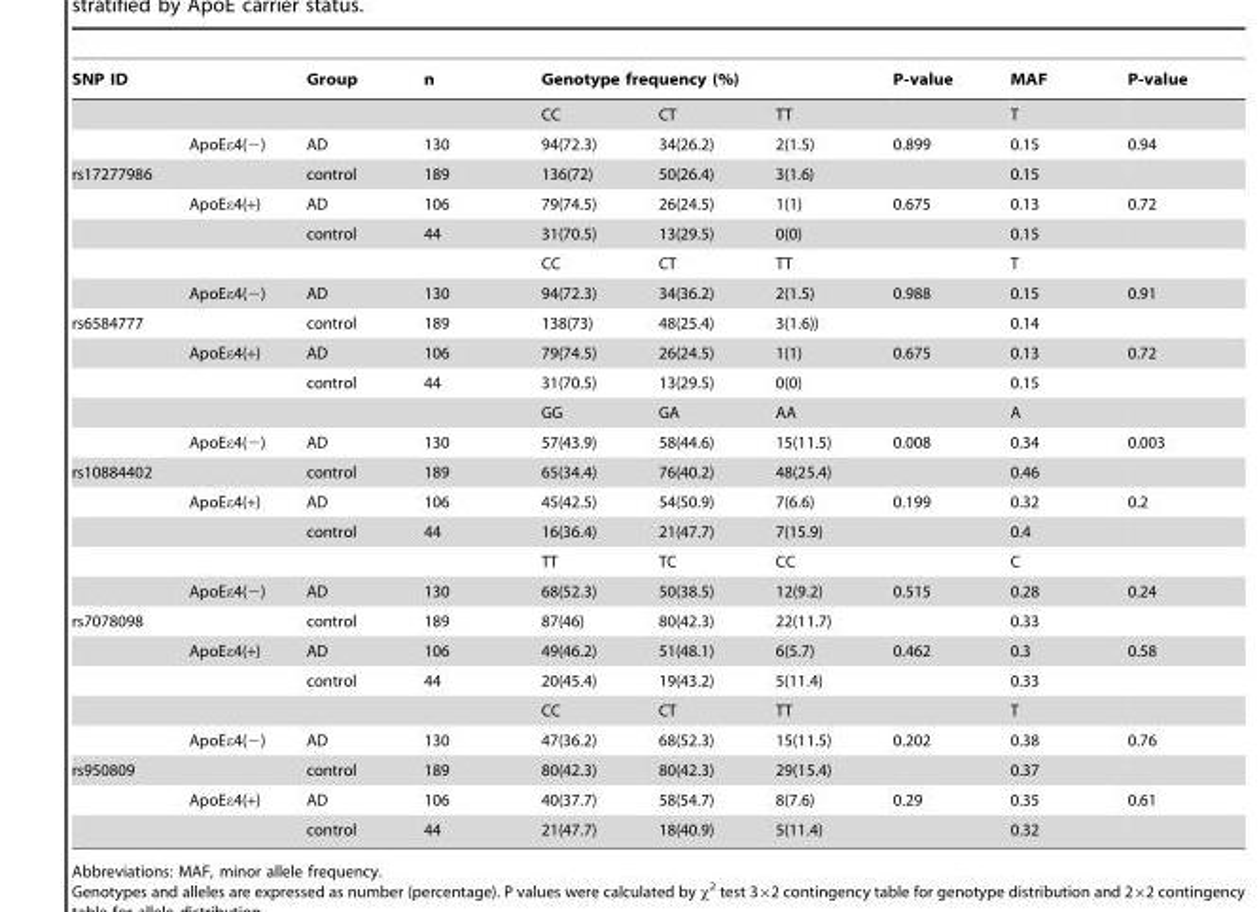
<table><thead><tr><td rowspan="2">SNP ID</td><td rowspan="2"></td><td rowspan="2">Group</td><td rowspan="2">n</td><td colspan="3">Genotype frequency (%)</td><td rowspan="2">P-value</td><td rowspan="2">MAF T</td><td rowspan="2">P-value</td></tr><tr><td>CC</td><td>CT</td><td>TT</td></tr></thead><tbody><tr><td></td><td>ApoEε4(−)</td><td>AD</td><td>130</td><td>94(72.3)</td><td>34(26.2)</td><td>2(1.5)</td><td>0.899</td><td>0.15</td><td>0.94</td></tr><tr><td rowspan="5">rs17277986</td><td></td><td>control</td><td>189</td><td>136(72)</td><td>50(26.4)</td><td>3(1.6)</td><td></td><td>0.15</td><td></td></tr><tr><td>ApoEε4(+)</td><td>AD</td><td>106</td><td>79(74.5)</td><td>26(24.5)</td><td>1(1)</td><td>0.675</td><td>0.13</td><td>0.72</td></tr><tr><td></td><td>control</td><td>44</td><td>31(70.5)</td><td>13(29.5)</td><td>0(0)</td><td></td><td>0.15</td><td></td></tr><tr><td></td><td></td><td></td><td>CC</td><td>CT</td><td>TT</td><td></td><td>T</td><td></td></tr><tr><td>ApoEε4(−)</td><td>AD</td><td>130</td><td>94(72.3)</td><td>34(36.2)</td><td>2(1.5)</td><td>0.988</td><td>0.15</td><td>0.91</td></tr><tr><td rowspan="5">rs6584777</td><td></td><td>control</td><td>189</td><td>138(73)</td><td>48(25.4)</td><td>3(1.6))</td><td></td><td>0.14</td><td></td></tr><tr><td>ApoEε4(+)</td><td>AD</td><td>106</td><td>79(74.5)</td><td>26(24.5)</td><td>1(1)</td><td>0.675</td><td>0.13</td><td>0.72</td></tr><tr><td></td><td>control</td><td>44</td><td>31(70.5)</td><td>13(29.5)</td><td>0(0)</td><td></td><td>0.15</td><td></td></tr><tr><td></td><td></td><td></td><td>GG</td><td>GA</td><td>AA</td><td></td><td>A</td><td></td></tr><tr><td>ApoEε4(−)</td><td>AD</td><td>130</td><td>57(43.9)</td><td>58(44.6)</td><td>15(11.5)</td><td>0.008</td><td>0.34</td><td>0.003</td></tr><tr><td rowspan="5">rs10884402</td><td></td><td>control</td><td>189</td><td>65(34.4)</td><td>76(40.2)</td><td>48(25.4)</td><td></td><td>0.46</td><td></td></tr><tr><td>ApoEε4(+)</td><td>AD</td><td>106</td><td>45(42.5)</td><td>54(50.9)</td><td>7(6.6)</td><td>0.199</td><td>0.32</td><td>0.2</td></tr><tr><td></td><td>control</td><td>44</td><td>16(36.4)</td><td>21(47.7)</td><td>7(15.9)</td><td></td><td>0.4</td><td></td></tr><tr><td></td><td></td><td></td><td>TT</td><td>TC</td><td>CC</td><td></td><td>C</td><td></td></tr><tr><td>ApoEε4(−)</td><td>AD</td><td>130</td><td>68(52.3)</td><td>50(38.5)</td><td>12(9.2)</td><td>0.515</td><td>0.28</td><td>0.24</td></tr><tr><td rowspan="5">rs7078098</td><td></td><td>control</td><td>189</td><td>87(46)</td><td>80(42.3)</td><td>22(11.7)</td><td></td><td>0.33</td><td></td></tr><tr><td>ApoEε4(+)</td><td>AD</td><td>106</td><td>49(46.2)</td><td>51(48.1)</td><td>6(5.7)</td><td>0.462</td><td>0.3</td><td>0.58</td></tr><tr><td></td><td>control</td><td>44</td><td>20(45.4)</td><td>19(43.2)</td><td>5(11.4)</td><td></td><td>0.33</td><td></td></tr><tr><td></td><td></td><td></td><td>CC</td><td>CT</td><td>TT</td><td></td><td>T</td><td></td></tr><tr><td>ApoEε4(−)</td><td>AD</td><td>130</td><td>47(36.2)</td><td>68(52.3)</td><td>15(11.5)</td><td>0.202</td><td>0.38</td><td>0.76</td></tr><tr><td rowspan="3">rs950809</td><td></td><td>control</td><td>189</td><td>80(42.3)</td><td>80(42.3)</td><td>29(15.4)</td><td></td><td>0.37</td><td></td></tr><tr><td>ApoEε4(+)</td><td>AD</td><td>106</td><td>40(37.7)</td><td>58(54.7)</td><td>8(7.6)</td><td>0.29</td><td>0.35</td><td>0.61</td></tr><tr><td></td><td>control</td><td>44</td><td>21(47.7)</td><td>18(40.9)</td><td>5(11.4)</td><td></td><td>0.32</td><td></td></tr></tbody></table>